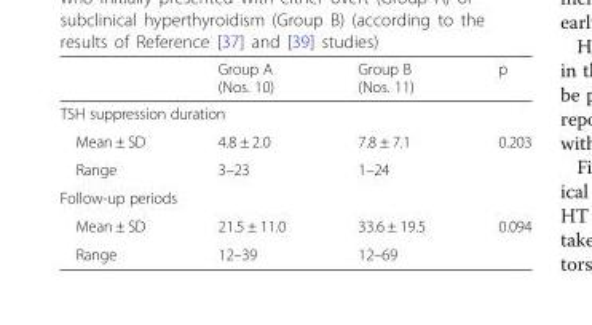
<table><thead><tr><td></td><td>Group A (Nos. 10)</td><td>Group B (Nos. 11)</td><td>p</td></tr></thead><tbody><tr><td colspan="4">TSH suppression duration</td></tr><tr><td>Mean ± SD</td><td>4.8 ± 2.0</td><td>7.8 ± 7.1</td><td rowspan="2">0.203</td></tr><tr><td>Range</td><td>3–23</td><td>1–24</td></tr><tr><td colspan="4">Follow-up periods</td></tr><tr><td>Mean ± SD</td><td>21.5 ± 11.0</td><td>33.6 ± 19.5</td><td rowspan="2">0.094</td></tr><tr><td>Range</td><td>12–39</td><td>12–69</td></tr></tbody></table>